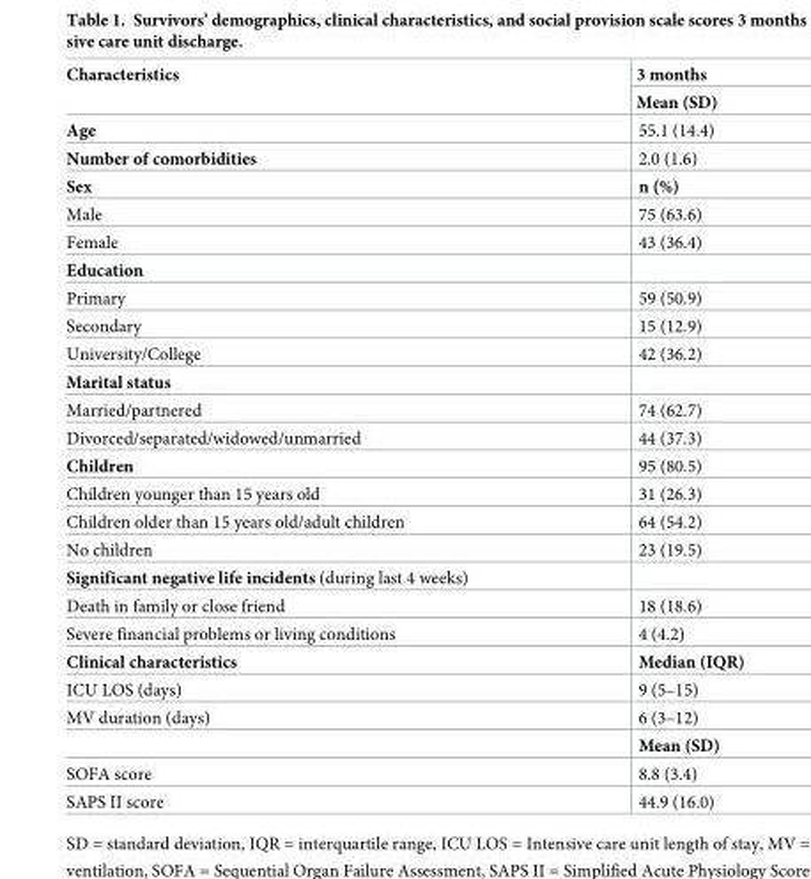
<table><thead><tr><td rowspan="2">Characteristics</td><td rowspan="2">3 months Mean (SD)</td></tr><tr></tr></thead><tbody><tr><td>Age</td><td>55.1 (14.4)</td></tr><tr><td>Number of comorbidities</td><td>2.0 (1.6)</td></tr><tr><td>Sex</td><td>n (%)</td></tr><tr><td>Male</td><td>75 (63.6)</td></tr><tr><td>Female</td><td>43 (36.4)</td></tr><tr><td colspan="2">Education</td></tr><tr><td>Primary</td><td>59 (50.9)</td></tr><tr><td>Secondary</td><td>15 (12.9)</td></tr><tr><td>University/College</td><td>42 (36.2)</td></tr><tr><td colspan="2">Marital status</td></tr><tr><td>Married/partnered</td><td>74 (62.7)</td></tr><tr><td>Divorced/separated/widowed/unmarried</td><td>44 (37.3)</td></tr><tr><td>Children</td><td>95 (80.5)</td></tr><tr><td>Children younger than 15 years old</td><td>31 (26.3)</td></tr><tr><td>Children older than 15 years old/adult children</td><td>64 (54.2)</td></tr><tr><td>No children</td><td>23 (19.5)</td></tr><tr><td colspan="2">Significant negative life incidents (during last 4 weeks)</td></tr><tr><td>Death in family or close friend</td><td>18 (18.6)</td></tr><tr><td>Severe financial problems or living conditions</td><td>4 (4.2)</td></tr><tr><td>Clinical characteristics</td><td>Median (IQR)</td></tr><tr><td>ICU LOS (days)</td><td>9 (5–15)</td></tr><tr><td rowspan="2">MV duration (days)</td><td>6 (3–12)</td></tr><tr><td>Mean (SD)</td></tr><tr><td>SOFA score</td><td>8.8 (3.4)</td></tr><tr><td>SAPS II score</td><td>44.9 (16.0)</td></tr></tbody></table>